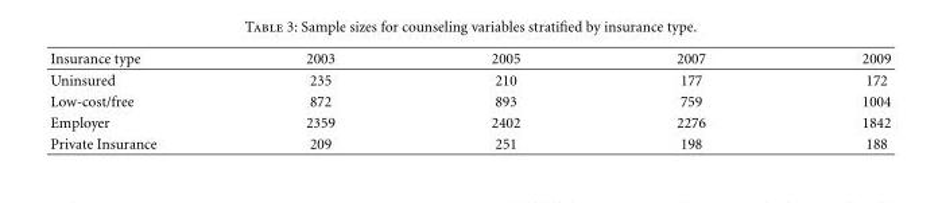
<table><thead><tr><td>Insurance type</td><td>2003</td><td>2005</td><td>2007</td><td>2009</td></tr></thead><tbody><tr><td>Uninsured</td><td>235</td><td>210</td><td>177</td><td>172</td></tr><tr><td>Low-cost/free</td><td>872</td><td>893</td><td>759</td><td>1004</td></tr><tr><td>Employer</td><td>2359</td><td>2402</td><td>2276</td><td>1842</td></tr><tr><td>Private Insurance</td><td>209</td><td>251</td><td>198</td><td>188</td></tr></tbody></table>